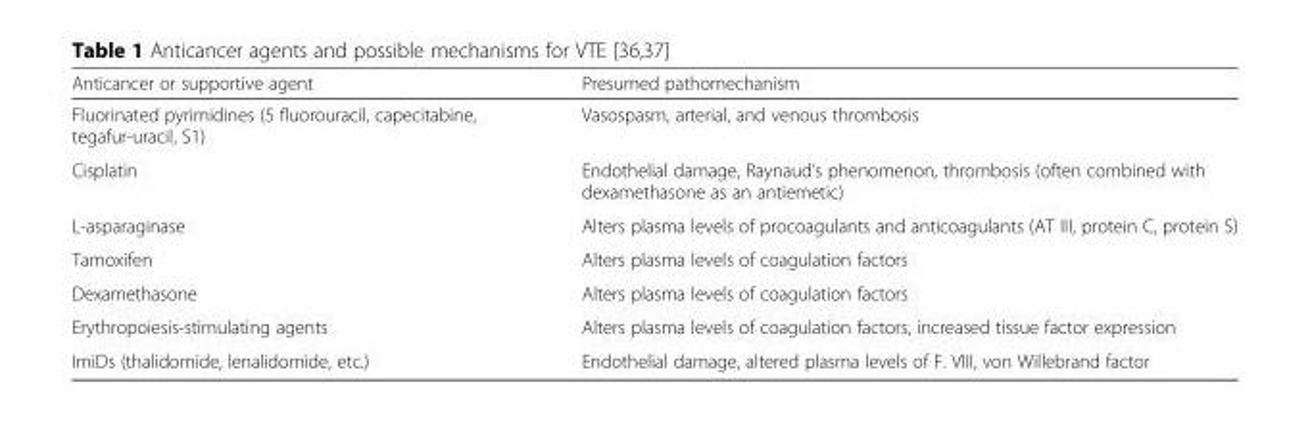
<table><thead><tr><td>Anticancer or supportive agent</td><td>Presumed pathomechanism</td></tr></thead><tbody><tr><td>Fluorinated pyrimidines (5 fluorouracil, capecitabine, tegafur-uracil, S1)</td><td>Vasospasm, arterial, and venous thrombosis</td></tr><tr><td>Cisplatin</td><td>Endothelial damage, Raynaud’s phenomenon, thrombosis (often combined with dexamethasone as an antiemetic)</td></tr><tr><td>L-asparaginase</td><td>Alters plasma levels of procoagulants and anticoagulants (AT III, protein C, protein S)</td></tr><tr><td>Tamoxifen</td><td>Alters plasma levels of coagulation factors</td></tr><tr><td>Dexamethasone</td><td>Alters plasma levels of coagulation factors</td></tr><tr><td>Erythropoiesis-stimulating agents</td><td>Alters plasma levels of coagulation factors, increased tissue factor expression</td></tr><tr><td>ImiDs (thalidomide, lenalidomide, etc.)</td><td>Endothelial damage, altered plasma levels of F. VIII, von Willebrand factor</td></tr></tbody></table>